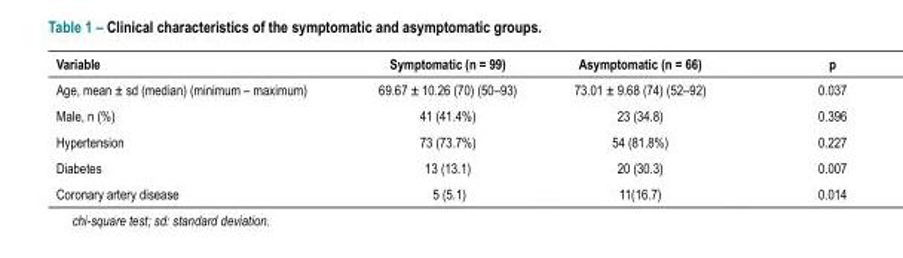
<table><thead><tr><td>Variable</td><td>Symptomatic (n = 99)</td><td>Asymptomatic (n = 66)</td><td>p</td></tr></thead><tbody><tr><td>Age, mean ± sd (median) (minimum – maximum)</td><td>69.67 ± 10.26 (70) (50–93)</td><td>73.01 ± 9.68 (74) (52–92)</td><td>0.037</td></tr><tr><td>Male, n (%)</td><td>41 (41.4%)</td><td>23 (34.8)</td><td>0.396</td></tr><tr><td>Hypertension</td><td>73 (73.7%)</td><td>54 (81.8%)</td><td>0.227</td></tr><tr><td>Diabetes</td><td>13 (13.1)</td><td>20 (30.3)</td><td>0.007</td></tr><tr><td>Coronary artery disease</td><td>5 (5.1)</td><td>11(16.7)</td><td>0.014</td></tr></tbody></table>